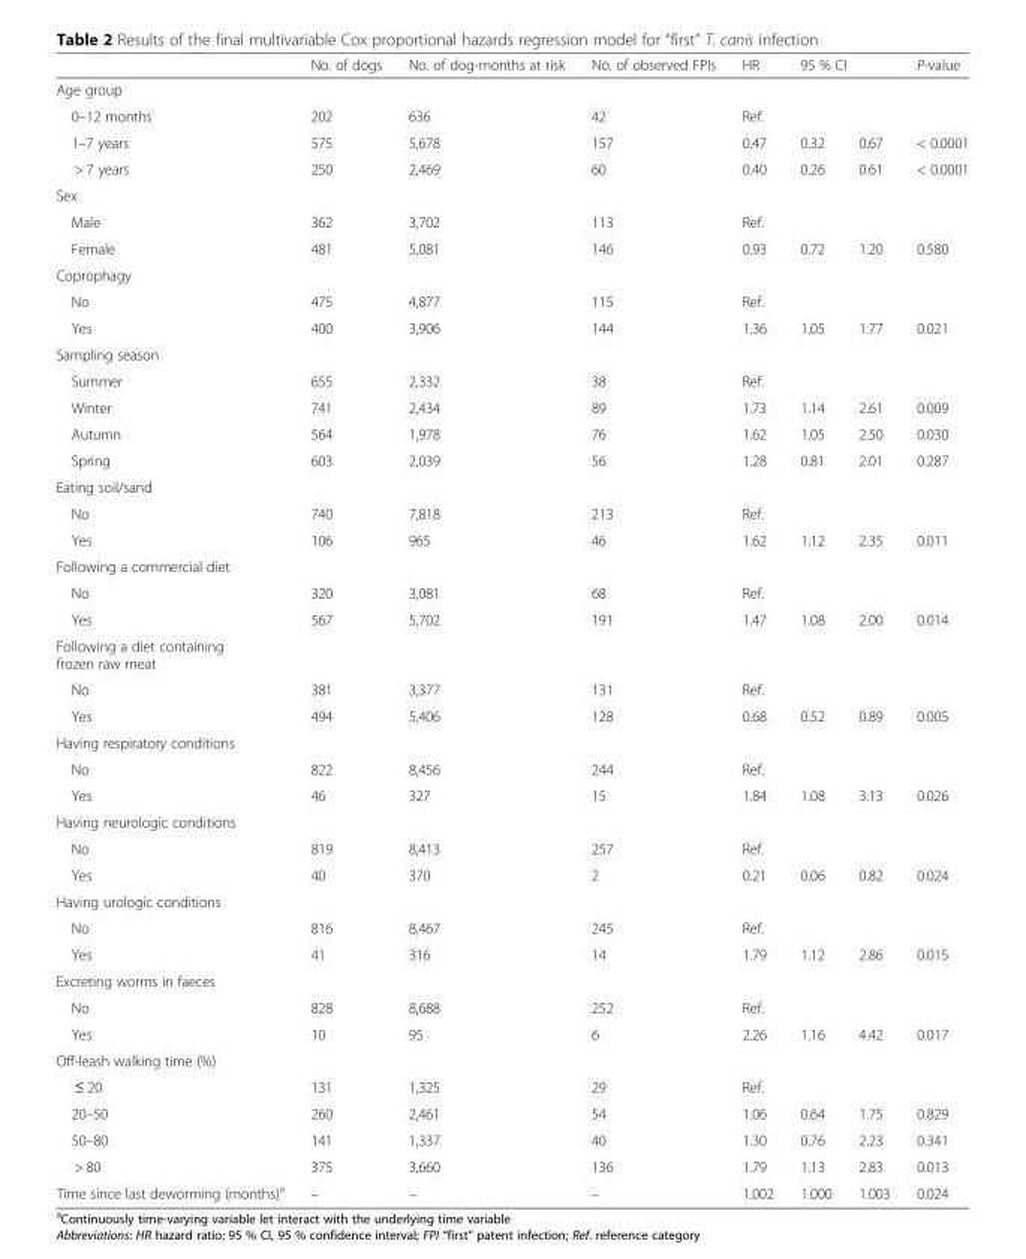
<table><thead><tr><td></td><td>No. of dogs</td><td>No. of dog-months at risk</td><td>No. of observed FPIs</td><td>HR</td><td colspan="2">95 % CI</td><td>P-value</td></tr><tr><td colspan="8">Age group</td></tr><tr><td>0–12 months</td><td>202</td><td>636</td><td>42</td><td>Ref.</td><td></td><td></td><td></td></tr></thead><tbody><tr><td>1–7 years</td><td>575</td><td>5,678</td><td>157</td><td>0.47</td><td>0.32</td><td>0.67</td><td>&lt; 0.0001</td></tr><tr><td>&gt; 7 years</td><td>250</td><td>2,469</td><td>60</td><td>0.40</td><td>0.26</td><td>0.61</td><td>&lt; 0.0001</td></tr><tr><td colspan="8">Sex</td></tr><tr><td>Male</td><td>362</td><td>3,702</td><td>113</td><td>Ref.</td><td></td><td></td><td></td></tr><tr><td>Female</td><td>481</td><td>5,081</td><td>146</td><td>0.93</td><td>0.72</td><td>1.20</td><td>0.580</td></tr><tr><td colspan="8">Coprophagy</td></tr><tr><td>No</td><td>475</td><td>4,877</td><td>115</td><td>Ref.</td><td></td><td></td><td></td></tr><tr><td>Yes</td><td>400</td><td>3,906</td><td>144</td><td>1.36</td><td>1.05</td><td>1.77</td><td>0.021</td></tr><tr><td colspan="8">Sampling season</td></tr><tr><td>Summer</td><td>655</td><td>2,332</td><td>38</td><td>Ref.</td><td></td><td></td><td></td></tr><tr><td>Winter</td><td>741</td><td>2,434</td><td>89</td><td>1.73</td><td>1.14</td><td>2.61</td><td>0.009</td></tr><tr><td>Autumn</td><td>564</td><td>1,978</td><td>76</td><td>1.62</td><td>1.05</td><td>2.50</td><td>0.030</td></tr><tr><td>Spring</td><td>603</td><td>2,039</td><td>56</td><td>1.28</td><td>0.81</td><td>2.01</td><td>0.287</td></tr><tr><td colspan="8">Eating soil/sand</td></tr><tr><td>No</td><td>740</td><td>7,818</td><td>213</td><td>Ref.</td><td></td><td></td><td></td></tr><tr><td>Yes</td><td>106</td><td>965</td><td>46</td><td>1.62</td><td>1.12</td><td>2.35</td><td>0.011</td></tr><tr><td colspan="8">Following a commercial diet</td></tr><tr><td>No</td><td>320</td><td>3,081</td><td>68</td><td>Ref.</td><td></td><td></td><td></td></tr><tr><td>Yes</td><td>567</td><td>5,702</td><td>191</td><td>1.47</td><td>1.08</td><td>2.00</td><td>0.014</td></tr><tr><td colspan="8">Following a diet containing frozen raw meat</td></tr><tr><td>No</td><td>381</td><td>3,377</td><td>131</td><td>Ref.</td><td></td><td></td><td></td></tr><tr><td>Yes</td><td>494</td><td>5,406</td><td>128</td><td>0.68</td><td>0.52</td><td>0.89</td><td>0.005</td></tr><tr><td colspan="8">Having respiratory conditions</td></tr><tr><td>No</td><td>822</td><td>8,456</td><td>244</td><td>Ref.</td><td></td><td></td><td></td></tr><tr><td>Yes</td><td>46</td><td>327</td><td>15</td><td>1.84</td><td>1.08</td><td>3.13</td><td>0.026</td></tr><tr><td colspan="8">Having neurologic conditions</td></tr><tr><td>No</td><td>819</td><td>8,413</td><td>257</td><td>Ref.</td><td></td><td></td><td></td></tr><tr><td>Yes</td><td>40</td><td>370</td><td>2</td><td>0.21</td><td>0.06</td><td>0.82</td><td>0.024</td></tr><tr><td colspan="8">Having urologic conditions</td></tr><tr><td>No</td><td>816</td><td>8,467</td><td>245</td><td>Ref.</td><td></td><td></td><td></td></tr><tr><td>Yes</td><td>41</td><td>316</td><td>14</td><td>1.79</td><td>1.12</td><td>2.86</td><td>0.015</td></tr><tr><td colspan="8">Excreting worms in faeces</td></tr><tr><td>No</td><td>828</td><td>8,688</td><td>252</td><td>Ref.</td><td></td><td></td><td></td></tr><tr><td>Yes</td><td>10</td><td>95</td><td>6</td><td>2.26</td><td>1.16</td><td>4.42</td><td>0.017</td></tr><tr><td colspan="8">Off-leash walking time (%)</td></tr><tr><td>≤ 20</td><td>131</td><td>1,325</td><td>29</td><td>Ref.</td><td></td><td></td><td></td></tr><tr><td>20–50</td><td>260</td><td>2,461</td><td>54</td><td>1.06</td><td>0.64</td><td>1.75</td><td>0.829</td></tr><tr><td>50–80</td><td>141</td><td>1,337</td><td>40</td><td>1.30</td><td>0.76</td><td>2.23</td><td>0.341</td></tr><tr><td>&gt; 80</td><td>375</td><td>3,660</td><td>136</td><td>1.79</td><td>1.13</td><td>2.83</td><td>0.013</td></tr><tr><td>Time since last deworming (months)<sup>a</sup></td><td>–</td><td>–</td><td>–</td><td>1.002</td><td>1.000</td><td>1.003</td><td>0.024</td></tr></tbody></table>